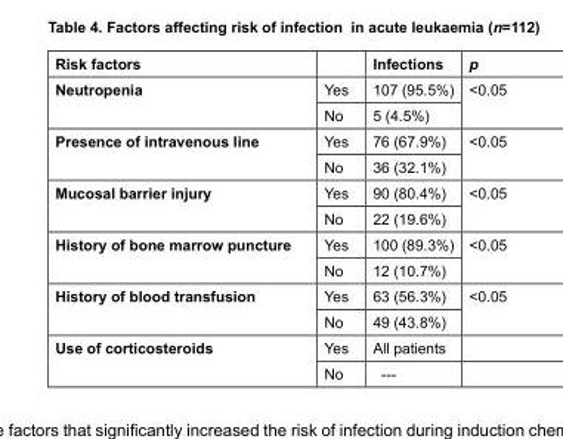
<table><thead><tr><td>Risk factors</td><td></td><td>Infections</td><td>p</td></tr></thead><tbody><tr><td rowspan="2">Neutropenia</td><td>Yes</td><td>107 (95.5%)</td><td rowspan="2">&lt;0.05</td></tr><tr><td>No</td><td>5 (4.5%)</td></tr><tr><td rowspan="2">Presence of intravenous line</td><td>Yes</td><td>76 (67.9%)</td><td rowspan="2">&lt;0.05</td></tr><tr><td>No</td><td>36 (32.1%)</td></tr><tr><td rowspan="2">Mucosal barrier injury</td><td>Yes</td><td>90 (80.4%)</td><td rowspan="2">&lt;0.05</td></tr><tr><td>No</td><td>22 (19.6%)</td></tr><tr><td rowspan="2">History of bone marrow puncture</td><td>Yes</td><td>100 (89.3%)</td><td rowspan="2">&lt;0.05</td></tr><tr><td>No</td><td>12 (10.7%)</td></tr><tr><td rowspan="2">History of blood transfusion</td><td>Yes</td><td>63 (56.3%)</td><td rowspan="2">&lt;0.05</td></tr><tr><td>No</td><td>49 (43.8%)</td></tr><tr><td rowspan="2">Use of corticosteroids</td><td>Yes</td><td>All patients</td><td></td></tr><tr><td>No</td><td>---</td><td></td></tr></tbody></table>